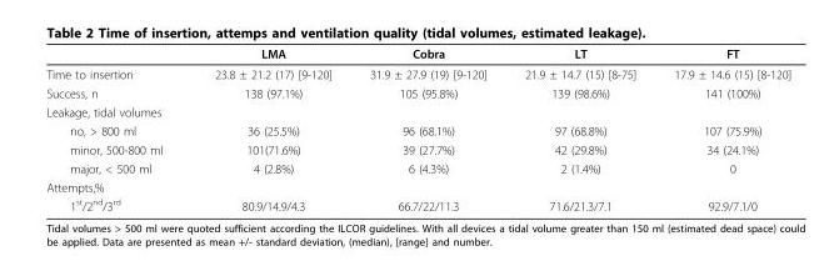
<table><thead><tr><td></td><td>LMA</td><td>Cobra</td><td>LT</td><td>FT</td></tr></thead><tbody><tr><td>Time to insertion</td><td>23.8 ± 21.2 (17) [9-120]</td><td>31.9 ± 27.9 (19) [9-120]</td><td>21.9 ± 14.7 (15) [8-75]</td><td>17.9 ± 14.6 (15) [8-120]</td></tr><tr><td>Success, n</td><td>138 (97.1%)</td><td>105 (95.8%)</td><td>139 (98.6%)</td><td>141 (100%)</td></tr><tr><td colspan="5">Leakage, tidal volumes</td></tr><tr><td>no, &gt; 800 ml</td><td>36 (25.5%)</td><td>96 (68.1%)</td><td>97 (68.8%)</td><td>107 (75.9%)</td></tr><tr><td>minor, 500-800 ml</td><td>101(71.6%)</td><td>39 (27.7%)</td><td>42 (29.8%)</td><td>34 (24.1%)</td></tr><tr><td>major, &lt; 500 ml</td><td>4 (2.8%)</td><td>6 (4.3%)</td><td>2 (1.4%)</td><td>0</td></tr><tr><td colspan="5">Attempts,%</td></tr><tr><td>1<sup>st</sup>/2<sup>nd</sup>/3<sup>rd</sup></td><td>80.9/14.9/4.3</td><td>66.7/22/11.3</td><td>71.6/21.3/7.1</td><td>92.9/7.1/0</td></tr></tbody></table>